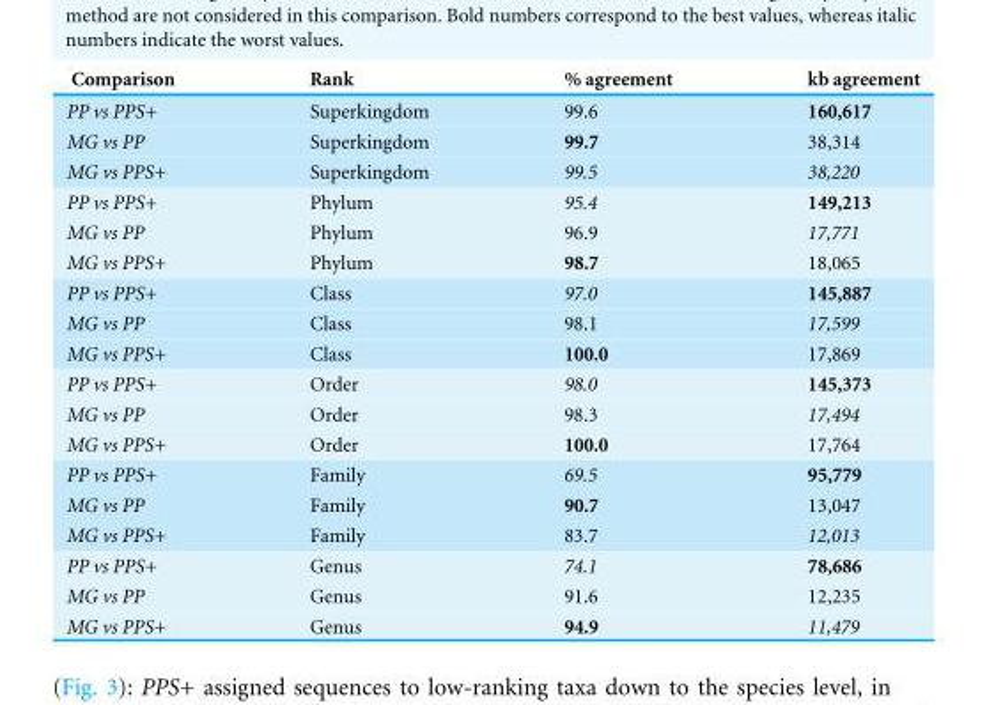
<table><thead><tr><td>Comparison</td><td>Rank</td><td>% agreement</td><td>kb agreement</td></tr></thead><tbody><tr><td>PP vs PPS+</td><td>Superkingdom</td><td>99.6</td><td>160,617</td></tr><tr><td>MG vs PP</td><td>Superkingdom</td><td>99.7</td><td>38,314</td></tr><tr><td>MG vs PPS+</td><td>Superkingdom</td><td>99.5</td><td>38,220</td></tr><tr><td>PP vs PPS+</td><td>Phylum</td><td>95.4</td><td>149,213</td></tr><tr><td>MG vs PP</td><td>Phylum</td><td>96.9</td><td>17,771</td></tr><tr><td>MG vs PPS+</td><td>Phylum</td><td>98.7</td><td>18,065</td></tr><tr><td>PP vs PPS+</td><td>Class</td><td>97.0</td><td>145,887</td></tr><tr><td>MG vs PP</td><td>Class</td><td>98.1</td><td>17,599</td></tr><tr><td>MG vs PPS+</td><td>Class</td><td>100.0</td><td>17,869</td></tr><tr><td>PP vs PPS+</td><td>Order</td><td>98.0</td><td>145,373</td></tr><tr><td>MG vs PP</td><td>Order</td><td>98.3</td><td>17,494</td></tr><tr><td>MG vs PPS+</td><td>Order</td><td>100.0</td><td>17,764</td></tr><tr><td>PP vs PPS+</td><td>Family</td><td>69.5</td><td>95,779</td></tr><tr><td>MG vs PP</td><td>Family</td><td>90.7</td><td>13,047</td></tr><tr><td>MG vs PPS+</td><td>Family</td><td>83.7</td><td>12,013</td></tr><tr><td>PP vs PPS+</td><td>Genus</td><td>74.1</td><td>78,686</td></tr><tr><td>MG vs PP</td><td>Genus</td><td>91.6</td><td>12,235</td></tr><tr><td>MG vs PPS+</td><td>Genus</td><td>94.9</td><td>11,479</td></tr></tbody></table>